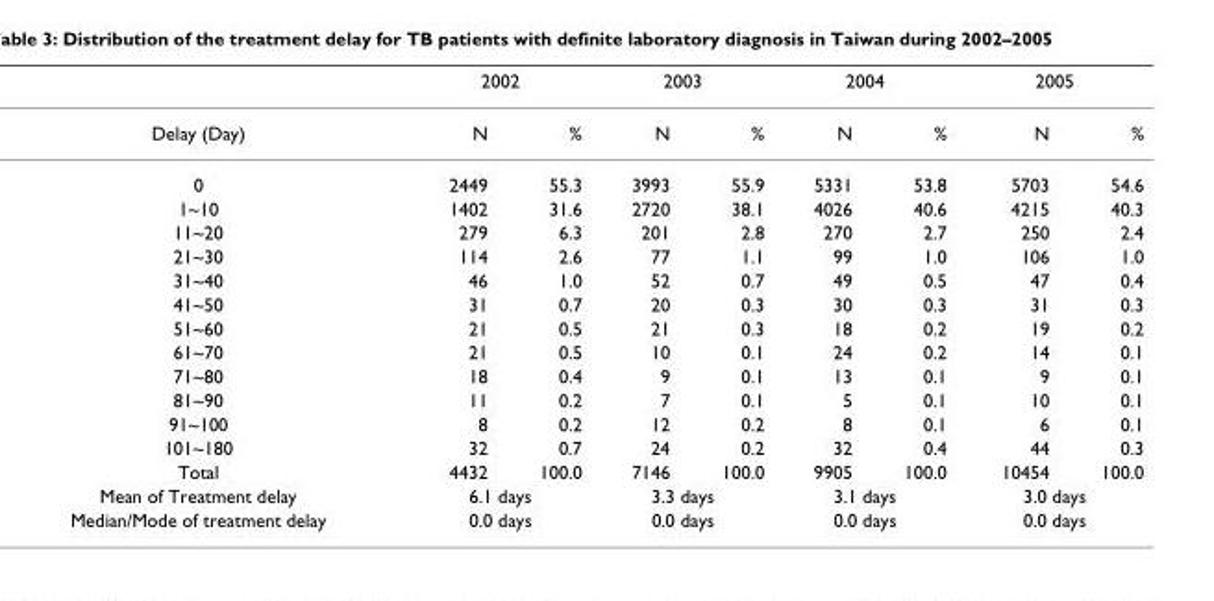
<table><thead><tr><td rowspan="2">Delay (Day)</td><td colspan="2">2002</td><td colspan="2">2003</td><td colspan="2">2004</td><td colspan="2">2005</td></tr><tr><td>N</td><td>%</td><td>N</td><td>%</td><td>N</td><td>%</td><td>N</td><td>%</td></tr></thead><tbody><tr><td>0</td><td>2449</td><td>55.3</td><td>3993</td><td>55.9</td><td>5331</td><td>53.8</td><td>5703</td><td>54.6</td></tr><tr><td>1~10</td><td>1402</td><td>31.6</td><td>2720</td><td>38.1</td><td>4026</td><td>40.6</td><td>4215</td><td>40.3</td></tr><tr><td>11~20</td><td>279</td><td>6.3</td><td>201</td><td>2.8</td><td>270</td><td>2.7</td><td>250</td><td>2.4</td></tr><tr><td>21~30</td><td>114</td><td>2.6</td><td>77</td><td>1.1</td><td>99</td><td>1.0</td><td>106</td><td>1.0</td></tr><tr><td>31~40</td><td>46</td><td>1.0</td><td>52</td><td>0.7</td><td>49</td><td>0.5</td><td>47</td><td>0.4</td></tr><tr><td>41~50</td><td>31</td><td>0.7</td><td>20</td><td>0.3</td><td>30</td><td>0.3</td><td>31</td><td>0.3</td></tr><tr><td>51~60</td><td>21</td><td>0.5</td><td>21</td><td>0.3</td><td>18</td><td>0.2</td><td>19</td><td>0.2</td></tr><tr><td>61~70</td><td>21</td><td>0.5</td><td>10</td><td>0.1</td><td>24</td><td>0.2</td><td>14</td><td>0.1</td></tr><tr><td>71~80</td><td>18</td><td>0.4</td><td>9</td><td>0.1</td><td>13</td><td>0.1</td><td>9</td><td>0.1</td></tr><tr><td>81~90</td><td>11</td><td>0.2</td><td>7</td><td>0.1</td><td>5</td><td>0.1</td><td>10</td><td>0.1</td></tr><tr><td>91~100</td><td>8</td><td>0.2</td><td>12</td><td>0.2</td><td>8</td><td>0.1</td><td>6</td><td>0.1</td></tr><tr><td>101~180</td><td>32</td><td>0.7</td><td>24</td><td>0.2</td><td>32</td><td>0.4</td><td>44</td><td>0.3</td></tr><tr><td>Total</td><td>4432</td><td>100.0</td><td>7146</td><td>100.0</td><td>9905</td><td>100.0</td><td>10454</td><td>100.0</td></tr><tr><td>Mean of Treatment delay</td><td colspan="2">6.1 days</td><td colspan="2">3.3 days</td><td colspan="2">3.1 days</td><td colspan="2">3.0 days</td></tr><tr><td>Median/Mode of treatment delay</td><td colspan="2">0.0 days</td><td colspan="2">0.0 days</td><td colspan="2">0.0 days</td><td colspan="2">0.0 days</td></tr></tbody></table>